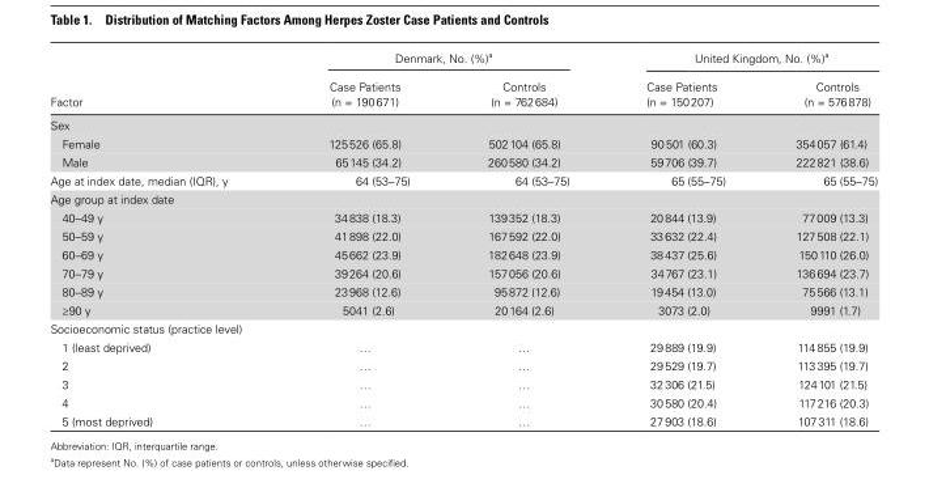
<table><thead><tr><td rowspan="2">Factor</td><td colspan="2">Denmark, No. (%)<sup>a</sup></td><td colspan="2">United Kingdom, No. (%)<sup>a</sup></td></tr><tr><td>Case Patients (n = 190 671)</td><td>Controls (n = 762 684)</td><td>Case Patients (n = 150 207)</td><td>Controls (n = 576 878)</td></tr></thead><tbody><tr><td colspan="5">Sex</td></tr><tr><td>Female</td><td>125 526 (65.8)</td><td>502 104 (65.8)</td><td>90 501 (60.3)</td><td>354 057 (61.4)</td></tr><tr><td>Male</td><td>65 145 (34.2)</td><td>260 580 (34.2)</td><td>59 706 (39.7)</td><td>222 821 (38.6)</td></tr><tr><td>Age at index date, median (IQR), y</td><td>64 (53–75)</td><td>64 (53–75)</td><td>65 (55–75)</td><td>65 (55–75)</td></tr><tr><td colspan="5">Age group at index date</td></tr><tr><td>40–49 y</td><td>34 838 (18.3)</td><td>139 352 (18.3)</td><td>20 844 (13.9)</td><td>77 009 (13.3)</td></tr><tr><td>50–59 y</td><td>41 898 (22.0)</td><td>167 592 (22.0)</td><td>33 632 (22.4)</td><td>127 508 (22.1)</td></tr><tr><td>60–69 y</td><td>45 662 (23.9)</td><td>182 648 (23.9)</td><td>38 437 (25.6)</td><td>150 110 (26.0)</td></tr><tr><td>70–79 y</td><td>39 264 (20.6)</td><td>157 056 (20.6)</td><td>34 767 (23.1)</td><td>136 694 (23.7)</td></tr><tr><td>80–89 y</td><td>23 968 (12.6)</td><td>95 872 (12.6)</td><td>19 454 (13.0)</td><td>75 566 (13.1)</td></tr><tr><td>≥90 y</td><td>5041 (2.6)</td><td>20 164 (2.6)</td><td>3073 (2.0)</td><td>9991 (1.7)</td></tr><tr><td colspan="5">Socioeconomic status (practice level)</td></tr><tr><td>1 (least deprived)</td><td>…</td><td>…</td><td>29 889 (19.9)</td><td>114 855 (19.9)</td></tr><tr><td>2</td><td>…</td><td>…</td><td>29 529 (19.7)</td><td>113 395 (19.7)</td></tr><tr><td>3</td><td>…</td><td>…</td><td>32 306 (21.5)</td><td>124 101 (21.5)</td></tr><tr><td>4</td><td>…</td><td>…</td><td>30 580 (20.4)</td><td>117 216 (20.3)</td></tr><tr><td>5 (most deprived)</td><td>…</td><td>…</td><td>27 903 (18.6)</td><td>107 311 (18.6)</td></tr></tbody></table>